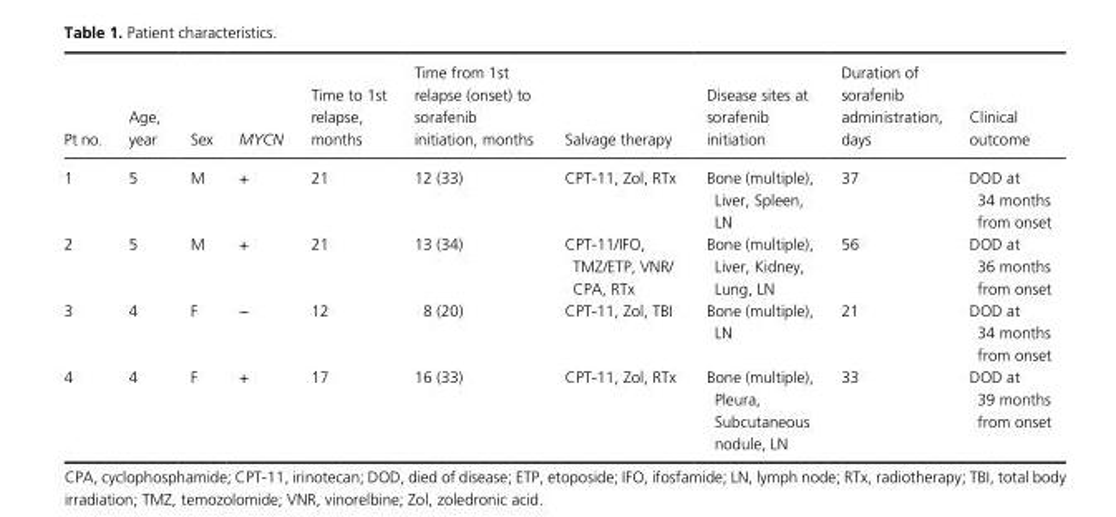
<table><thead><tr><td>Pt no.</td><td>Age, year</td><td>Sex</td><td>MYCN</td><td>Time to 1st relapse, months</td><td>Time from 1st relapse (onset) to sorafenib initiation, months</td><td>Salvage therapy</td><td>Disease sites at sorafenib initiation</td><td>Duration of sorafenib administration, days</td><td>Clinical outcome</td></tr></thead><tbody><tr><td>1</td><td>5</td><td>M</td><td>+</td><td>21</td><td>12 (33)</td><td>CPT- 11, Zol, RTx</td><td>Bone (multiple), Liver, Spleen, LN</td><td>37</td><td>DOD at 34 months from onset</td></tr><tr><td>2</td><td>5</td><td>M</td><td>+</td><td>21</td><td>13 (34)</td><td>CPT- 11/IFO, TMZ/ETP, VNR/ CPA, RTx</td><td>Bone (multiple), Liver, Kidney, Lung, LN</td><td>56</td><td>DOD at 36 months from onset</td></tr><tr><td>3</td><td>4</td><td>F</td><td>−</td><td>12</td><td>8 (20)</td><td>CPT- 11, Zol, TBI</td><td>Bone (multiple), LN</td><td>21</td><td>DOD at 34 months from onset</td></tr><tr><td>4</td><td>4</td><td>F</td><td>+</td><td>17</td><td>16 (33)</td><td>CPT- 11, Zol, RTx</td><td>Bone (multiple), Pleura, Subcutaneous nodule, LN</td><td>33</td><td>DOD at 39 months from onset</td></tr></tbody></table>